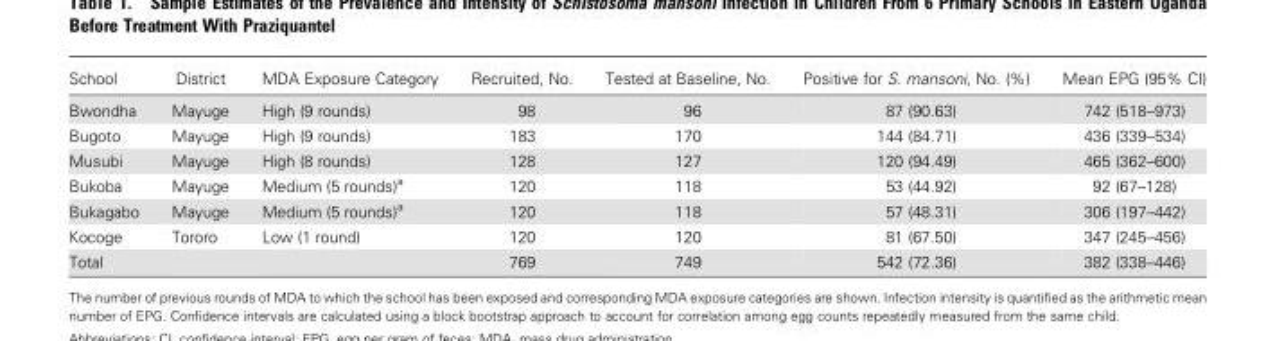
<table><thead><tr><td>School</td><td>District</td><td>MDA Exposure Category</td><td>Recruited, No.</td><td>Tested at Baseline, No.</td><td>Positive for S. mansoni, No. (%)</td><td>Mean EPG (95% CI)</td></tr></thead><tbody><tr><td>Bwondha</td><td>Mayuge</td><td>High (9 rounds)</td><td>98</td><td>96</td><td>87 (90.63)</td><td>742 (518–973)</td></tr><tr><td>Bugoto</td><td>Mayuge</td><td>High (9 rounds)</td><td>183</td><td>170</td><td>144 (84.71)</td><td>436 (339–534)</td></tr><tr><td>Musubi</td><td>Mayuge</td><td>High (8 rounds)</td><td>128</td><td>127</td><td>120 (94.49)</td><td>465 (362–600)</td></tr><tr><td>Bukoba</td><td>Mayuge</td><td>Medium (5 rounds)<sup>a</sup></td><td>120</td><td>118</td><td>53 (44.92)</td><td>92 (67–128)</td></tr><tr><td>Bukagabo</td><td>Mayuge</td><td>Medium (5 rounds)<sup>a</sup></td><td>120</td><td>118</td><td>57 (48.31)</td><td>306 (197–442)</td></tr><tr><td>Kocoge</td><td>Tororo</td><td>Low (1 round)</td><td>120</td><td>120</td><td>81 (67.50)</td><td>347 (245–456)</td></tr><tr><td>Total</td><td></td><td></td><td>769</td><td>749</td><td>542 (72.36)</td><td>382 (338–446)</td></tr></tbody></table>